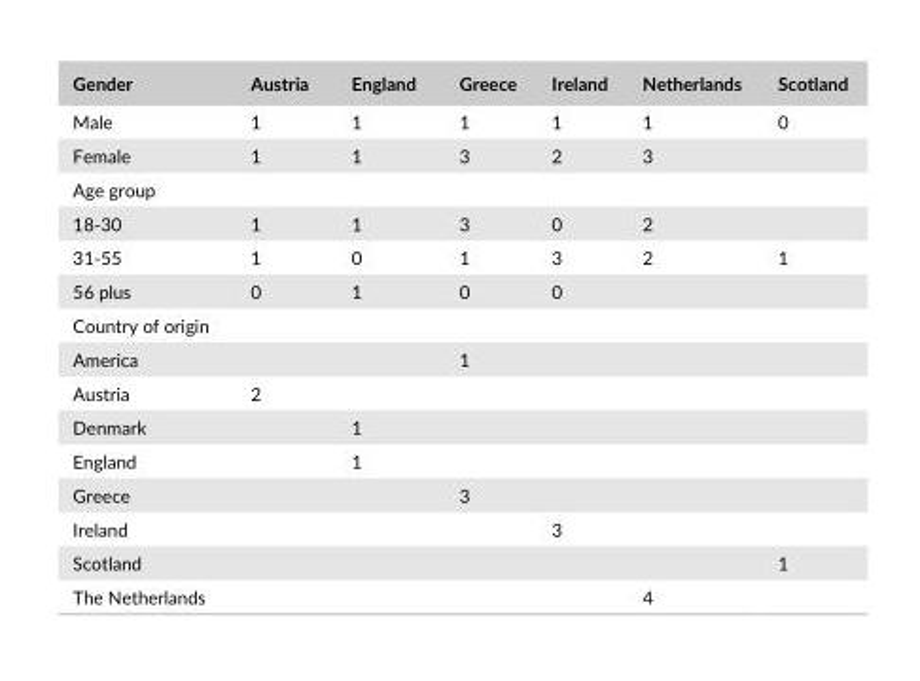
<table><thead><tr><td>Gender</td><td>Austria</td><td>England</td><td>Greece</td><td>Ireland</td><td>Netherlands</td><td>Scotland</td></tr></thead><tbody><tr><td>Male</td><td>1</td><td>1</td><td>1</td><td>1</td><td>1</td><td>0</td></tr><tr><td>Female</td><td>1</td><td>1</td><td>3</td><td>2</td><td>3</td><td></td></tr><tr><td colspan="7">Age group</td></tr><tr><td>18- 30</td><td>1</td><td>1</td><td>3</td><td>0</td><td>2</td><td></td></tr><tr><td>31- 55</td><td>1</td><td>0</td><td>1</td><td>3</td><td>2</td><td>1</td></tr><tr><td>56 plus</td><td>0</td><td>1</td><td>0</td><td>0</td><td></td><td></td></tr><tr><td colspan="7">Country of origin</td></tr><tr><td>America</td><td></td><td></td><td>1</td><td></td><td></td><td></td></tr><tr><td>Austria</td><td>2</td><td></td><td></td><td></td><td></td><td></td></tr><tr><td>Denmark</td><td></td><td>1</td><td></td><td></td><td></td><td></td></tr><tr><td>England</td><td></td><td>1</td><td></td><td></td><td></td><td></td></tr><tr><td>Greece</td><td></td><td></td><td>3</td><td></td><td></td><td></td></tr><tr><td>Ireland</td><td></td><td></td><td></td><td>3</td><td></td><td></td></tr><tr><td>Scotland</td><td></td><td></td><td></td><td></td><td></td><td>1</td></tr><tr><td>The Netherlands</td><td></td><td></td><td></td><td></td><td>4</td><td></td></tr></tbody></table>